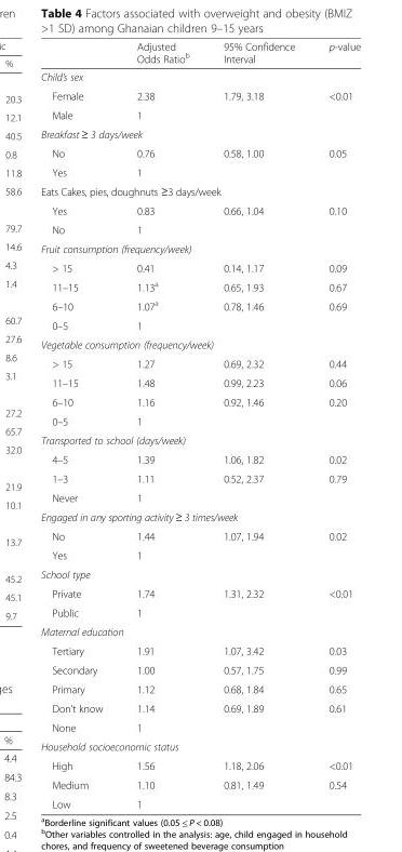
<table><thead><tr><td></td><td>Adjusted Odds Ratio<sup>b</sup></td><td>95% Confidence Interval</td><td>p-value</td></tr></thead><tbody><tr><td colspan="4">Child’s sex</td></tr><tr><td>Female</td><td>2.38</td><td>1.79, 3.18</td><td>&lt;0.01</td></tr><tr><td>Male</td><td>1</td><td></td><td></td></tr><tr><td colspan="4">Breakfast ≥ 3 days/week</td></tr><tr><td>No</td><td>0.76</td><td>0.58, 1.00</td><td>0.05</td></tr><tr><td>Yes</td><td>1</td><td></td><td></td></tr><tr><td colspan="4">Eats Cakes, pies, doughnuts ≥3 days/week</td></tr><tr><td>Yes</td><td>0.83</td><td>0.66, 1.04</td><td>0.10</td></tr><tr><td>No</td><td>1</td><td></td><td></td></tr><tr><td colspan="4">Fruit consumption (frequency/week)</td></tr><tr><td>&gt; 15</td><td>0.41</td><td>0.14, 1.17</td><td>0.09</td></tr><tr><td>11–15</td><td>1.13<sup>a</sup></td><td>0.65, 1.93</td><td>0.67</td></tr><tr><td>6–10</td><td>1.07<sup>a</sup></td><td>0.78, 1.46</td><td>0.69</td></tr><tr><td>0–5</td><td>1</td><td></td><td></td></tr><tr><td colspan="4">Vegetable consumption (frequency/week)</td></tr><tr><td>&gt; 15</td><td>1.27</td><td>0.69, 2.32</td><td>0.44</td></tr><tr><td>11–15</td><td>1.48</td><td>0.99, 2.23</td><td>0.06</td></tr><tr><td>6–10</td><td>1.16</td><td>0.92, 1.46</td><td>0.20</td></tr><tr><td>0–5</td><td>1</td><td></td><td></td></tr><tr><td colspan="4">Transported to school (days/week)</td></tr><tr><td>4–5</td><td>1.39</td><td>1.06, 1.82</td><td>0.02</td></tr><tr><td>1–3</td><td>1.11</td><td>0.52, 2.37</td><td>0.79</td></tr><tr><td>Never</td><td>1</td><td></td><td></td></tr><tr><td colspan="4">Engaged in any sporting activity ≥ 3 times/week</td></tr><tr><td>No</td><td>1.44</td><td>1.07, 1.94</td><td>0.02</td></tr><tr><td>Yes</td><td>1</td><td></td><td></td></tr><tr><td colspan="4">School type</td></tr><tr><td>Private</td><td>1.74</td><td>1.31, 2.32</td><td>&lt;0.01</td></tr><tr><td>Public</td><td>1</td><td></td><td></td></tr><tr><td colspan="4">Maternal education</td></tr><tr><td>Tertiary</td><td>1.91</td><td>1.07, 3.42</td><td>0.03</td></tr><tr><td>Secondary</td><td>1.00</td><td>0.57, 1.75</td><td>0.99</td></tr><tr><td>Primary</td><td>1.12</td><td>0.68, 1.84</td><td>0.65</td></tr><tr><td>Don’t know</td><td>1.14</td><td>0.69, 1.89</td><td>0.61</td></tr><tr><td>None</td><td>1</td><td></td><td></td></tr><tr><td colspan="4">Household socioeconomic status</td></tr><tr><td>High</td><td>1.56</td><td>1.18, 2.06</td><td>&lt;0.01</td></tr><tr><td>Medium</td><td>1.10</td><td>0.81, 1.49</td><td>0.54</td></tr><tr><td>Low</td><td>1</td><td></td><td></td></tr></tbody></table>